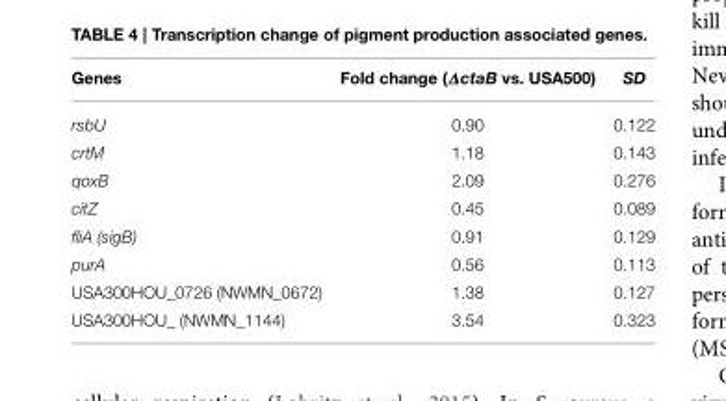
<table><thead><tr><td>Genes</td><td>Fold change (∆ctaB vs. USA500)</td><td>SD</td></tr></thead><tbody><tr><td>rsbU</td><td>0.90</td><td>0.122</td></tr><tr><td>crtM</td><td>1.18</td><td>0.143</td></tr><tr><td>qoxB</td><td>2.09</td><td>0.276</td></tr><tr><td>citZ</td><td>0.45</td><td>0.089</td></tr><tr><td>fliA (sigB)</td><td>0.91</td><td>0.129</td></tr><tr><td>purA</td><td>0.56</td><td>0.113</td></tr><tr><td>USA300HOU_0726 (NWMN_0672)</td><td>1.38</td><td>0.127</td></tr><tr><td>USA300HOU_ (NWMN_1144)</td><td>3.54</td><td>0.323</td></tr></tbody></table>